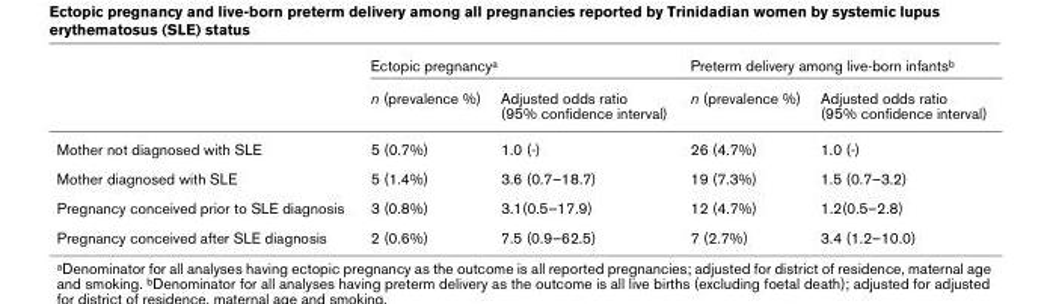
<table><thead><tr><td rowspan="2"></td><td colspan="2">Ectopic pregnancy<sup>a</sup></td><td colspan="2">Preterm delivery among live-born infants<sup>b</sup></td></tr><tr><td>n (prevalence %)</td><td>Adjusted odds ratio (95% confidence interval)</td><td>n (prevalence %)</td><td>Adjusted odds ratio (95% confidence interval)</td></tr></thead><tbody><tr><td>Mother not diagnosed with SLE</td><td>5 (0.7%)</td><td>1.0 (-)</td><td>26 (4.7%)</td><td>1.0 (-)</td></tr><tr><td>Mother diagnosed with SLE</td><td>5 (1.4%)</td><td>3.6 (0.7–18.7)</td><td>19 (7.3%)</td><td>1.5 (0.7–3.2)</td></tr><tr><td>Pregnancy conceived prior to SLE diagnosis</td><td>3 (0.8%)</td><td>3.1(0.5–17.9)</td><td>12 (4.7%)</td><td>1.2(0.5–2.8)</td></tr><tr><td>Pregnancy conceived after SLE diagnosis</td><td>2 (0.6%)</td><td>7.5 (0.9–62.5)</td><td>7 (2.7%)</td><td>3.4 (1.2–10.0)</td></tr></tbody></table>